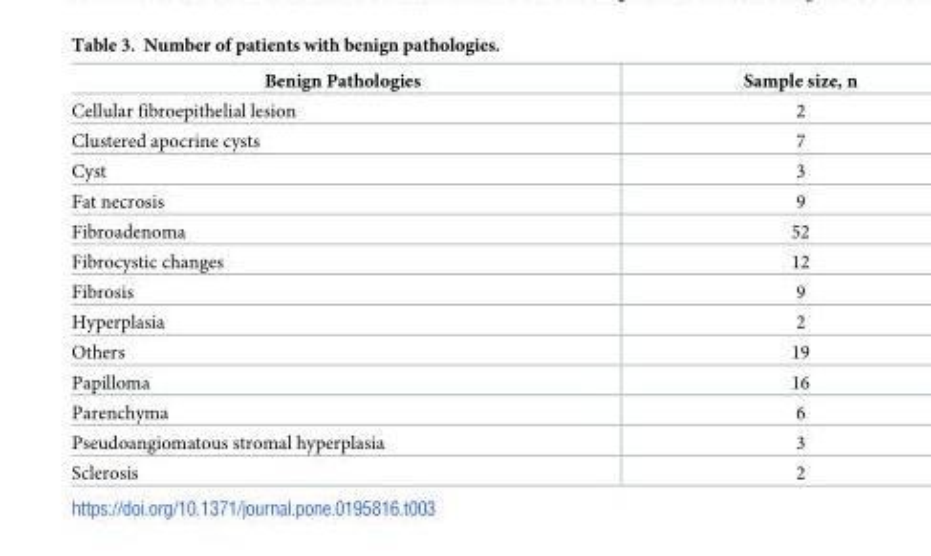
<table><thead><tr><td>Benign Pathologies</td><td>Sample size, n</td></tr></thead><tbody><tr><td>Cellular fibroepithelial lesion</td><td>2</td></tr><tr><td>Clustered apocrine cysts</td><td>7</td></tr><tr><td>Cyst</td><td>3</td></tr><tr><td>Fat necrosis</td><td>9</td></tr><tr><td>Fibroadenoma</td><td>52</td></tr><tr><td>Fibrocystic changes</td><td>12</td></tr><tr><td>Fibrosis</td><td>9</td></tr><tr><td>Hyperplasia</td><td>2</td></tr><tr><td>Others</td><td>19</td></tr><tr><td>Papilloma</td><td>16</td></tr><tr><td>Parenchyma</td><td>6</td></tr><tr><td>Pseudoangiomatous stromal hyperplasia</td><td>3</td></tr><tr><td>Sclerosis</td><td>2</td></tr></tbody></table>